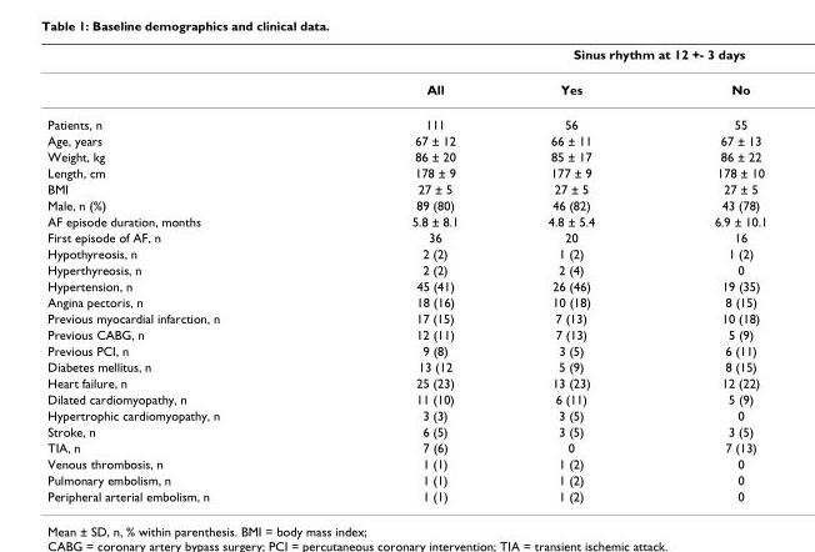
<table><thead><tr><td rowspan="2"></td><td rowspan="2">All</td><td colspan="2">Sinus rhythm at 12 +- 3 days</td></tr><tr><td>Yes</td><td>No</td></tr></thead><tbody><tr><td>Patients, n</td><td>111</td><td>56</td><td>55</td></tr><tr><td>Age, years</td><td>67 ± 12</td><td>66 ± 11</td><td>67 ± 13</td></tr><tr><td>Weight, kg</td><td>86 ± 20</td><td>85 ± 17</td><td>86 ± 22</td></tr><tr><td>Length, cm</td><td>178 ± 9</td><td>177 ± 9</td><td>178 ± 10</td></tr><tr><td>BMI</td><td>27 ± 5</td><td>27 ± 5</td><td>27 ± 5</td></tr><tr><td>Male, n (%)</td><td>89 (80)</td><td>46 (82)</td><td>43 (78)</td></tr><tr><td>AF episode duration, months</td><td>5.8 ± 8.1</td><td>4.8 ± 5.4</td><td>6.9 ± 10.1</td></tr><tr><td>First episode of AF, n</td><td>36</td><td>20</td><td>16</td></tr><tr><td>Hypothyreosis, n</td><td>2 (2)</td><td>1 (2)</td><td>1 (2)</td></tr><tr><td>Hyperthyreosis, n</td><td>2 (2)</td><td>2 (4)</td><td>0</td></tr><tr><td>Hypertension, n</td><td>45 (41)</td><td>26 (46)</td><td>19 (35)</td></tr><tr><td>Angina pectoris, n</td><td>18 (16)</td><td>10 (18)</td><td>8 (15)</td></tr><tr><td>Previous myocardial infarction, n</td><td>17 (15)</td><td>7 (13)</td><td>10 (18)</td></tr><tr><td>Previous CABG, n</td><td>12 (11)</td><td>7 (13)</td><td>5 (9)</td></tr><tr><td>Previous PCI, n</td><td>9 (8)</td><td>3 (5)</td><td>6 (11)</td></tr><tr><td>Diabetes mellitus, n</td><td>13 (12</td><td>5 (9)</td><td>8 (15)</td></tr><tr><td>Heart failure, n</td><td>25 (23)</td><td>13 (23)</td><td>12 (22)</td></tr><tr><td>Dilated cardiomyopathy, n</td><td>11 (10)</td><td>6 (11)</td><td>5 (9)</td></tr><tr><td>Hypertrophic cardiomyopathy, n</td><td>3 (3)</td><td>3 (5)</td><td>0</td></tr><tr><td>Stroke, n</td><td>6 (5)</td><td>3 (5)</td><td>3 (5)</td></tr><tr><td>TIA, n</td><td>7 (6)</td><td>0</td><td>7 (13)</td></tr><tr><td>Venous thrombosis, n</td><td>1 (1)</td><td>1 (2)</td><td>0</td></tr><tr><td>Pulmonary embolism, n</td><td>1 (1)</td><td>1 (2)</td><td>0</td></tr><tr><td>Peripheral arterial embolism, n</td><td>1 (1)</td><td>1 (2)</td><td>0</td></tr></tbody></table>